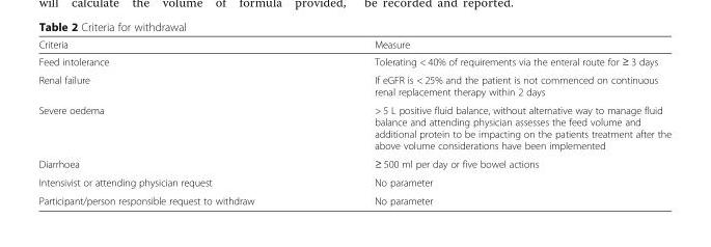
<table><thead><tr><td>Criteria</td><td>Measure</td></tr></thead><tbody><tr><td>Feed intolerance</td><td>Tolerating &lt; 40% of requirements via the enteral route for ≥ 3 days</td></tr><tr><td>Renal failure</td><td>If eGFR is &lt; 25% and the patient is not commenced on continuous renal replacement therapy within 2 days</td></tr><tr><td>Severe oedema</td><td>&gt; 5 L positive fluid balance, without alternative way to manage fluid balance and attending physician assesses the feed volume and additional protein to be impacting on the patients treatment after the above volume considerations have been implemented</td></tr><tr><td>Diarrhoea</td><td>≥ 500 ml per day or five bowel actions</td></tr><tr><td>Intensivist or attending physician request</td><td>No parameter</td></tr><tr><td>Participant/person responsible request to withdraw</td><td>No parameter</td></tr></tbody></table>